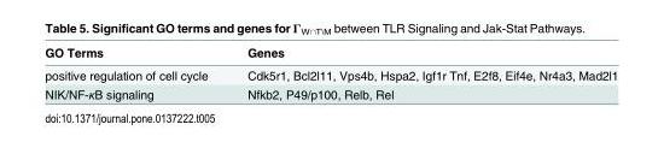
<table><thead><tr><td>GO Terms</td><td>Genes</td></tr></thead><tbody><tr><td>positive regulation of cell cycle</td><td>Cdk5r1, Bcl2l11, Vps4b, Hspa2, Igf1r Tnf, E2f8, Eif4e, Nr4a3, Mad2l1</td></tr><tr><td>NIK/NF-κB signaling</td><td>Nfkb2, P49/p100, Relb, Rel</td></tr></tbody></table>